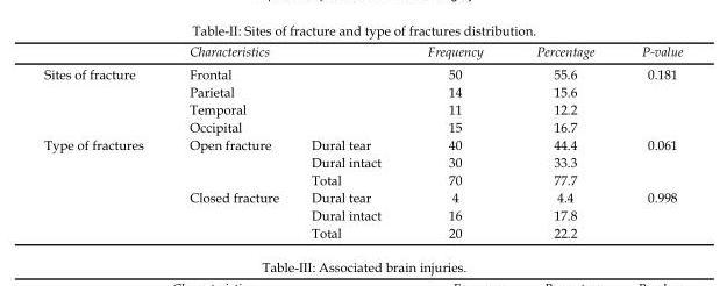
<table><thead><tr><td rowspan="2">Sites of fracture</td><td colspan="2">Characteristics</td><td rowspan="2">Frequency 50</td><td rowspan="2">Percentage 55.6</td><td rowspan="2">P-value 0.181</td></tr><tr><td>Frontal</td><td></td></tr></thead><tbody><tr><td></td><td>Parietal</td><td></td><td>14</td><td>15.6</td><td></td></tr><tr><td></td><td>Temporal</td><td></td><td>11</td><td>12.2</td><td></td></tr><tr><td></td><td>Occipital</td><td></td><td>15</td><td>16.7</td><td></td></tr><tr><td rowspan="6">Type of fractures</td><td>Open fracture</td><td>Dural tear</td><td>40</td><td>44.4</td><td>0.061</td></tr><tr><td></td><td>Dural intact</td><td>30</td><td>33.3</td><td></td></tr><tr><td></td><td>Total</td><td>70</td><td>77.7</td><td></td></tr><tr><td>Closed fracture</td><td>Dural tear</td><td>4</td><td>4.4</td><td>0.998</td></tr><tr><td></td><td>Dural intact</td><td>16</td><td>17.8</td><td></td></tr><tr><td></td><td>Total</td><td>20</td><td>22.2</td><td></td></tr></tbody></table>